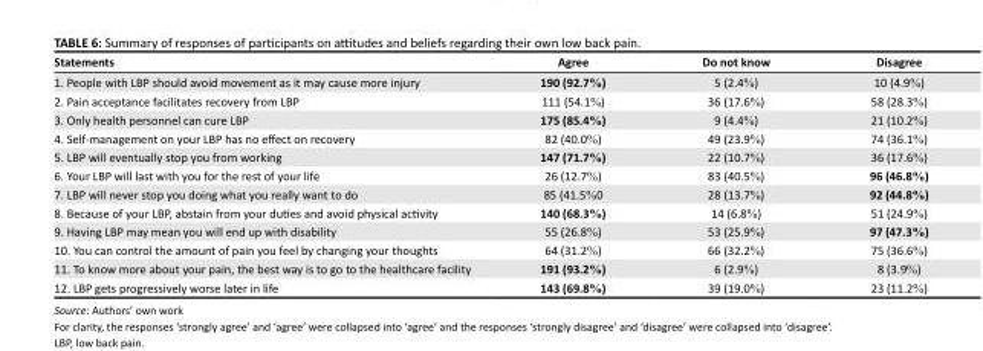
<table><thead><tr><td>Statements</td><td>Agree</td><td>Do not know</td><td>Disagree</td></tr></thead><tbody><tr><td>1. People with LBP should avoid movement as it may cause more injury</td><td>190 (92.7%)</td><td>5 (2.4%)</td><td>10 (4.9%)</td></tr><tr><td>2. Pain acceptance facilitates recovery from LBP</td><td>111 (54.1%)</td><td>36 (17.6%)</td><td>58 (28.3%)</td></tr><tr><td>3. Only health personnel can cure LBP</td><td>175 (85.4%)</td><td>9 (4.4%)</td><td>21 (10.2%)</td></tr><tr><td>4. Self-management on your LBP has no effect on recovery</td><td>82 (40.0%)</td><td>49 (23.9%)</td><td>74 (36.1%)</td></tr><tr><td>5. LBP will eventually stop you from working</td><td>147 (71.7%)</td><td>22 (10.7%)</td><td>36 (17.6%)</td></tr><tr><td>6. Your LBP will last with you for the rest of your life</td><td>26 (12.7%)</td><td>83 (40.5%)</td><td>96 (46.8%)</td></tr><tr><td>7. LBP will never stop you doing what you really want to do</td><td>85 (41.5%0</td><td>28 (13.7%)</td><td>92 (44.8%)</td></tr><tr><td>8. Because of your LBP, abstain from your duties and avoid physical activity</td><td>140 (68.3%)</td><td>14 (6.8%)</td><td>51 (24.9%)</td></tr><tr><td>9. Having LBP may mean you will end up with disability</td><td>55 (26.8%)</td><td>53 (25.9%)</td><td>97 (47.3%)</td></tr><tr><td>10. You can control the amount of pain you feel by changing your thoughts</td><td>64 (31.2%)</td><td>66 (32.2%)</td><td>75 (36.6%)</td></tr><tr><td>11. To know more about your pain, the best way is to go to the healthcare facility</td><td>191 (93.2%)</td><td>6 (2.9%)</td><td>8 (3.9%)</td></tr><tr><td>12. LBP gets progressively worse later in life</td><td>143 (69.8%)</td><td>39 (19.0%)</td><td>23 (11.2%)</td></tr></tbody></table>